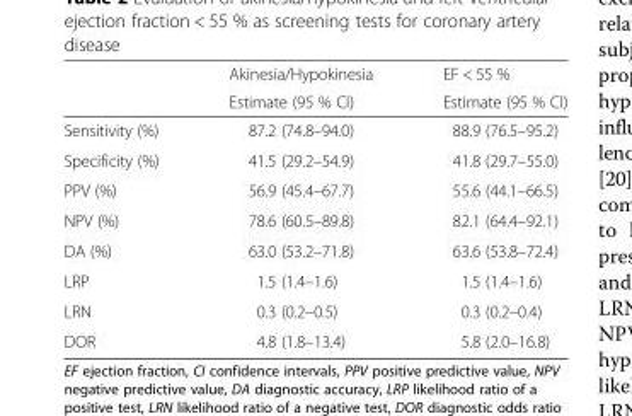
<table><thead><tr><td rowspan="2"></td><td rowspan="2">Akinesia/Hypokinesia Estimate (95 % CI)</td><td rowspan="2">EF &lt; 55 % Estimate (95 % CI)</td></tr><tr></tr></thead><tbody><tr><td>Sensitivity (%)</td><td>87.2 (74.8–94.0)</td><td>88.9 (76.5–95.2)</td></tr><tr><td>Specificity (%)</td><td>41.5 (29.2–54.9)</td><td>41.8 (29.7–55.0)</td></tr><tr><td>PPV (%)</td><td>56.9 (45.4–67.7)</td><td>55.6 (44.1–66.5)</td></tr><tr><td>NPV (%)</td><td>78.6 (60.5–89.8)</td><td>82.1 (64.4–92.1)</td></tr><tr><td>DA (%)</td><td>63.0 (53.2–71.8)</td><td>63.6 (53.8–72.4)</td></tr><tr><td>LRP</td><td>1.5 (1.4–1.6)</td><td>1.5 (1.4–1.6)</td></tr><tr><td>LRN</td><td>0.3 (0.2–0.5)</td><td>0.3 (0.2–0.4)</td></tr><tr><td>DOR</td><td>4.8 (1.8–13.4)</td><td>5.8 (2.0–16.8)</td></tr></tbody></table>